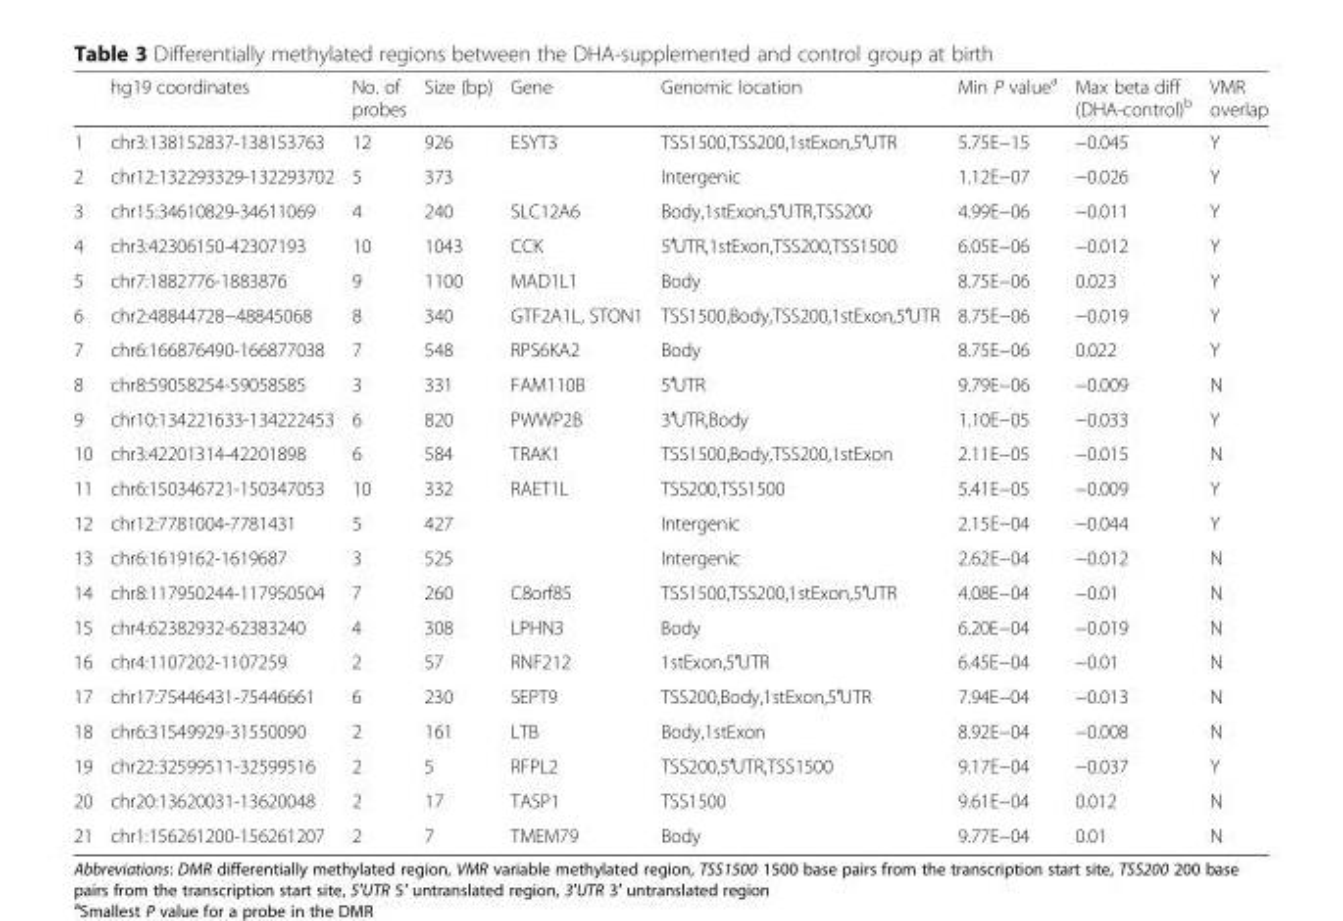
<table><thead><tr><td></td><td>hg19 coordinates</td><td>No. of probes</td><td>Size (bp)</td><td>Gene</td><td>Genomic location</td><td>Min P value<sup>a</sup></td><td>Max beta diff (DHA-control)<sup>b</sup></td><td>VMR overlap</td></tr></thead><tbody><tr><td>1</td><td>chr3:138152837-138153763</td><td>12</td><td>926</td><td>ESYT3</td><td>TSS1500,TSS200,1stExon,5′UTR</td><td>5.75E−15</td><td>−0.045</td><td>Y</td></tr><tr><td>2</td><td>chr12:132293329-132293702</td><td>5</td><td>373</td><td></td><td>Intergenic</td><td>1.12E−07</td><td>−0.026</td><td>Y</td></tr><tr><td>3</td><td>chr15:34610829-34611069</td><td>4</td><td>240</td><td>SLC12A6</td><td>Body,1stExon,5′UTR,TSS200</td><td>4.99E−06</td><td>−0.011</td><td>Y</td></tr><tr><td>4</td><td>chr3:42306150-42307193</td><td>10</td><td>1043</td><td>CCK</td><td>5′UTR,1stExon,TSS200,TSS1500</td><td>6.05E−06</td><td>−0.012</td><td>Y</td></tr><tr><td>5</td><td>chr7:1882776-1883876</td><td>9</td><td>1100</td><td>MAD1L1</td><td>Body</td><td>8.75E−06</td><td>0.023</td><td>Y</td></tr><tr><td>6</td><td>chr2:48844728−48845068</td><td>8</td><td>340</td><td>GTF2A1L, STON1</td><td>TSS1500,Body,TSS200,1stExon,5′UTR</td><td>8.75E−06</td><td>−0.019</td><td>Y</td></tr><tr><td>7</td><td>chr6:166876490-166877038</td><td>7</td><td>548</td><td>RPS6KA2</td><td>Body</td><td>8.75E−06</td><td>0.022</td><td>Y</td></tr><tr><td>8</td><td>chr8:59058254-59058585</td><td>3</td><td>331</td><td>FAM110B</td><td>5′UTR</td><td>9.79E−06</td><td>−0.009</td><td>N</td></tr><tr><td>9</td><td>chr10:134221633-134222453</td><td>6</td><td>820</td><td>PWWP2B</td><td>3′UTR,Body</td><td>1.10E−05</td><td>−0.033</td><td>Y</td></tr><tr><td>10</td><td>chr3:42201314-42201898</td><td>6</td><td>584</td><td>TRAK1</td><td>TSS1500,Body,TSS200,1stExon</td><td>2.11E−05</td><td>−0.015</td><td>N</td></tr><tr><td>11</td><td>chr6:150346721-150347053</td><td>10</td><td>332</td><td>RAET1L</td><td>TSS200,TSS1500</td><td>5.41E−05</td><td>−0.009</td><td>Y</td></tr><tr><td>12</td><td>chr12:7781004-7781431</td><td>5</td><td>427</td><td></td><td>Intergenic</td><td>2.15E−04</td><td>−0.044</td><td>Y</td></tr><tr><td>13</td><td>chr6:1619162-1619687</td><td>3</td><td>525</td><td></td><td>Intergenic</td><td>2.62E−04</td><td>−0.012</td><td>N</td></tr><tr><td>14</td><td>chr8:117950244-117950504</td><td>7</td><td>260</td><td>C8orf85</td><td>TSS1500,TSS200,1stExon,5′UTR</td><td>4.08E−04</td><td>−0.01</td><td>N</td></tr><tr><td>15</td><td>chr4:62382932-62383240</td><td>4</td><td>308</td><td>LPHN3</td><td>Body</td><td>6.20E−04</td><td>−0.019</td><td>N</td></tr><tr><td>16</td><td>chr4:1107202-1107259</td><td>2</td><td>57</td><td>RNF212</td><td>1stExon,5′UTR</td><td>6.45E−04</td><td>−0.01</td><td>N</td></tr><tr><td>17</td><td>chr17:75446431-75446661</td><td>6</td><td>230</td><td>SEPT9</td><td>TSS200,Body,1stExon,5′UTR</td><td>7.94E−04</td><td>−0.013</td><td>N</td></tr><tr><td>18</td><td>chr6:31549929-31550090</td><td>2</td><td>161</td><td>LTB</td><td>Body,1stExon</td><td>8.92E−04</td><td>−0.008</td><td>N</td></tr><tr><td>19</td><td>chr22:32599511-32599516</td><td>2</td><td>5</td><td>RFPL2</td><td>TSS200,5′UTR,TSS1500</td><td>9.17E−04</td><td>−0.037</td><td>Y</td></tr><tr><td>20</td><td>chr20:13620031-13620048</td><td>2</td><td>17</td><td>TASP1</td><td>TSS1500</td><td>9.61E−04</td><td>0.012</td><td>N</td></tr><tr><td>21</td><td>chr1:156261200-156261207</td><td>2</td><td>7</td><td>TMEM79</td><td>Body</td><td>9.77E−04</td><td>0.01</td><td>N</td></tr></tbody></table>